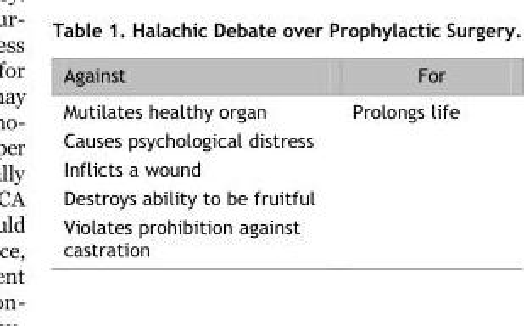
<table><thead><tr><td>Against</td><td>For</td></tr></thead><tbody><tr><td>Mutilates healthy organ Causes psychological distress Inflicts a wound Destroys ability to be fruitful Violates prohibition against castration</td><td>Prolongs life</td></tr></tbody></table>